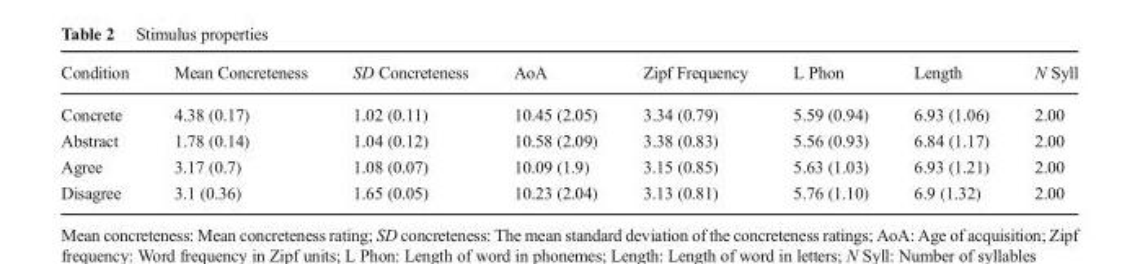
<table><thead><tr><td>Condition</td><td>Mean Concreteness</td><td>SD Concreteness</td><td>AoA</td><td>Zipf Frequency</td><td>L Phon</td><td>Length</td><td>N Syll</td></tr></thead><tbody><tr><td>Concrete</td><td>4.38 (0.17)</td><td>1.02 (0.11)</td><td>10.45 (2.05)</td><td>3.34 (0.79)</td><td>5.59 (0.94)</td><td>6.93 (1.06)</td><td>2.00</td></tr><tr><td>Abstract</td><td>1.78 (0.14)</td><td>1.04 (0.12)</td><td>10.58 (2.09)</td><td>3.38 (0.83)</td><td>5.56 (0.93)</td><td>6.84 (1.17)</td><td>2.00</td></tr><tr><td>Agree</td><td>3.17 (0.7)</td><td>1.08 (0.07)</td><td>10.09 (1.9)</td><td>3.15 (0.85)</td><td>5.63 (1.03)</td><td>6.93 (1.21)</td><td>2.00</td></tr><tr><td>Disagree</td><td>3.1 (0.36)</td><td>1.65 (0.05)</td><td>10.23 (2.04)</td><td>3.13 (0.81)</td><td>5.76 (1.10)</td><td>6.9 (1.32)</td><td>2.00</td></tr></tbody></table>